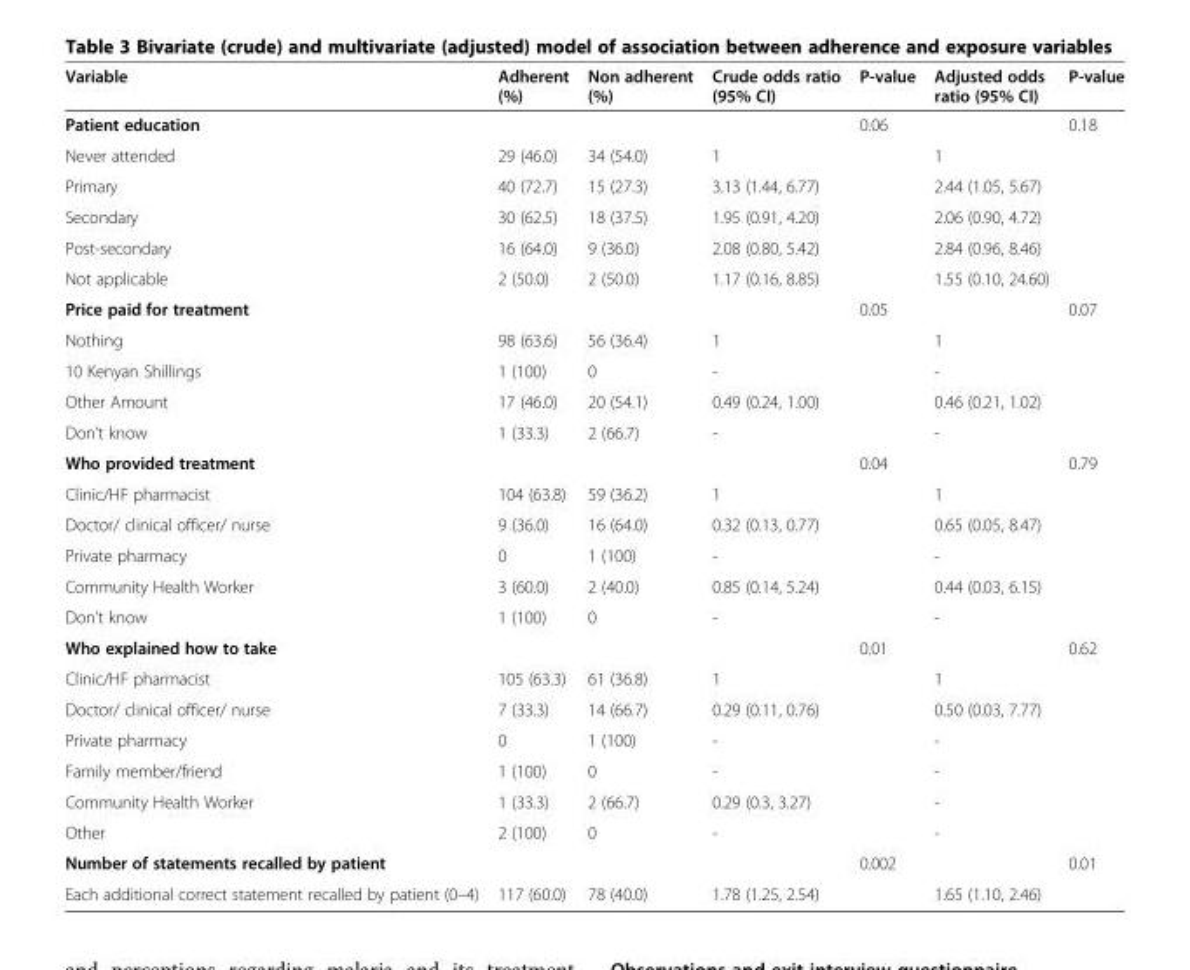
<table><thead><tr><td>Variable</td><td>Adherent (%)</td><td>Non adherent (%)</td><td>Crude odds ratio (95% CI)</td><td>P-value</td><td>Adjusted odds ratio (95% CI)</td><td>P-value</td></tr></thead><tbody><tr><td>Patient education</td><td></td><td></td><td></td><td>0.06</td><td></td><td>0.18</td></tr><tr><td>Never attended</td><td>29 (46.0)</td><td>34 (54.0)</td><td>1</td><td></td><td>1</td><td></td></tr><tr><td>Primary</td><td>40 (72.7)</td><td>15 (27.3)</td><td>3.13 (1.44, 6.77)</td><td></td><td>2.44 (1.05, 5.67)</td><td></td></tr><tr><td>Secondary</td><td>30 (62.5)</td><td>18 (37.5)</td><td>1.95 (0.91, 4.20)</td><td></td><td>2.06 (0.90, 4.72)</td><td></td></tr><tr><td>Post-secondary</td><td>16 (64.0)</td><td>9 (36.0)</td><td>2.08 (0.80, 5.42)</td><td></td><td>2.84 (0.96, 8.46)</td><td></td></tr><tr><td>Not applicable</td><td>2 (50.0)</td><td>2 (50.0)</td><td>1.17 (0.16, 8.85)</td><td></td><td>1.55 (0.10, 24.60)</td><td></td></tr><tr><td>Price paid for treatment</td><td></td><td></td><td></td><td>0.05</td><td></td><td>0.07</td></tr><tr><td>Nothing</td><td>98 (63.6)</td><td>56 (36.4)</td><td>1</td><td></td><td>1</td><td></td></tr><tr><td>10 Kenyan Shillings</td><td>1 (100)</td><td>0</td><td>-</td><td></td><td>-</td><td></td></tr><tr><td>Other Amount</td><td>17 (46.0)</td><td>20 (54.1)</td><td>0.49 (0.24, 1.00)</td><td></td><td>0.46 (0.21, 1.02)</td><td></td></tr><tr><td>Don’t know</td><td>1 (33.3)</td><td>2 (66.7)</td><td>-</td><td></td><td>-</td><td></td></tr><tr><td>Who provided treatment</td><td></td><td></td><td></td><td>0.04</td><td></td><td>0.79</td></tr><tr><td>Clinic/HF pharmacist</td><td>104 (63.8)</td><td>59 (36.2)</td><td>1</td><td></td><td>1</td><td></td></tr><tr><td>Doctor/ clinical officer/ nurse</td><td>9 (36.0)</td><td>16 (64.0)</td><td>0.32 (0.13, 0.77)</td><td></td><td>0.65 (0.05, 8.47)</td><td></td></tr><tr><td>Private pharmacy</td><td>0</td><td>1 (100)</td><td>-</td><td></td><td>-</td><td></td></tr><tr><td>Community Health Worker</td><td>3 (60.0)</td><td>2 (40.0)</td><td>0.85 (0.14, 5.24)</td><td></td><td>0.44 (0.03, 6.15)</td><td></td></tr><tr><td>Don’t know</td><td>1 (100)</td><td>0</td><td>-</td><td></td><td>-</td><td></td></tr><tr><td>Who explained how to take</td><td></td><td></td><td></td><td>0.01</td><td></td><td>0.62</td></tr><tr><td>Clinic/HF pharmacist</td><td>105 (63.3)</td><td>61 (36.8)</td><td>1</td><td></td><td>1</td><td></td></tr><tr><td>Doctor/ clinical officer/ nurse</td><td>7 (33.3)</td><td>14 (66.7)</td><td>0.29 (0.11, 0.76)</td><td></td><td>0.50 (0.03, 7.77)</td><td></td></tr><tr><td>Private pharmacy</td><td>0</td><td>1 (100)</td><td>-</td><td></td><td>-</td><td></td></tr><tr><td>Family member/friend</td><td>1 (100)</td><td>0</td><td>-</td><td></td><td>-</td><td></td></tr><tr><td>Community Health Worker</td><td>1 (33.3)</td><td>2 (66.7)</td><td>0.29 (0.3, 3.27)</td><td></td><td>-</td><td></td></tr><tr><td>Other</td><td>2 (100)</td><td>0</td><td>-</td><td></td><td>-</td><td></td></tr><tr><td>Number of statements recalled by patient</td><td></td><td></td><td></td><td>0.002</td><td></td><td>0.01</td></tr><tr><td>Each additional correct statement recalled by patient (0–4)</td><td>117 (60.0)</td><td>78 (40.0)</td><td>1.78 (1.25, 2.54)</td><td></td><td>1.65 (1.10, 2.46)</td><td></td></tr></tbody></table>